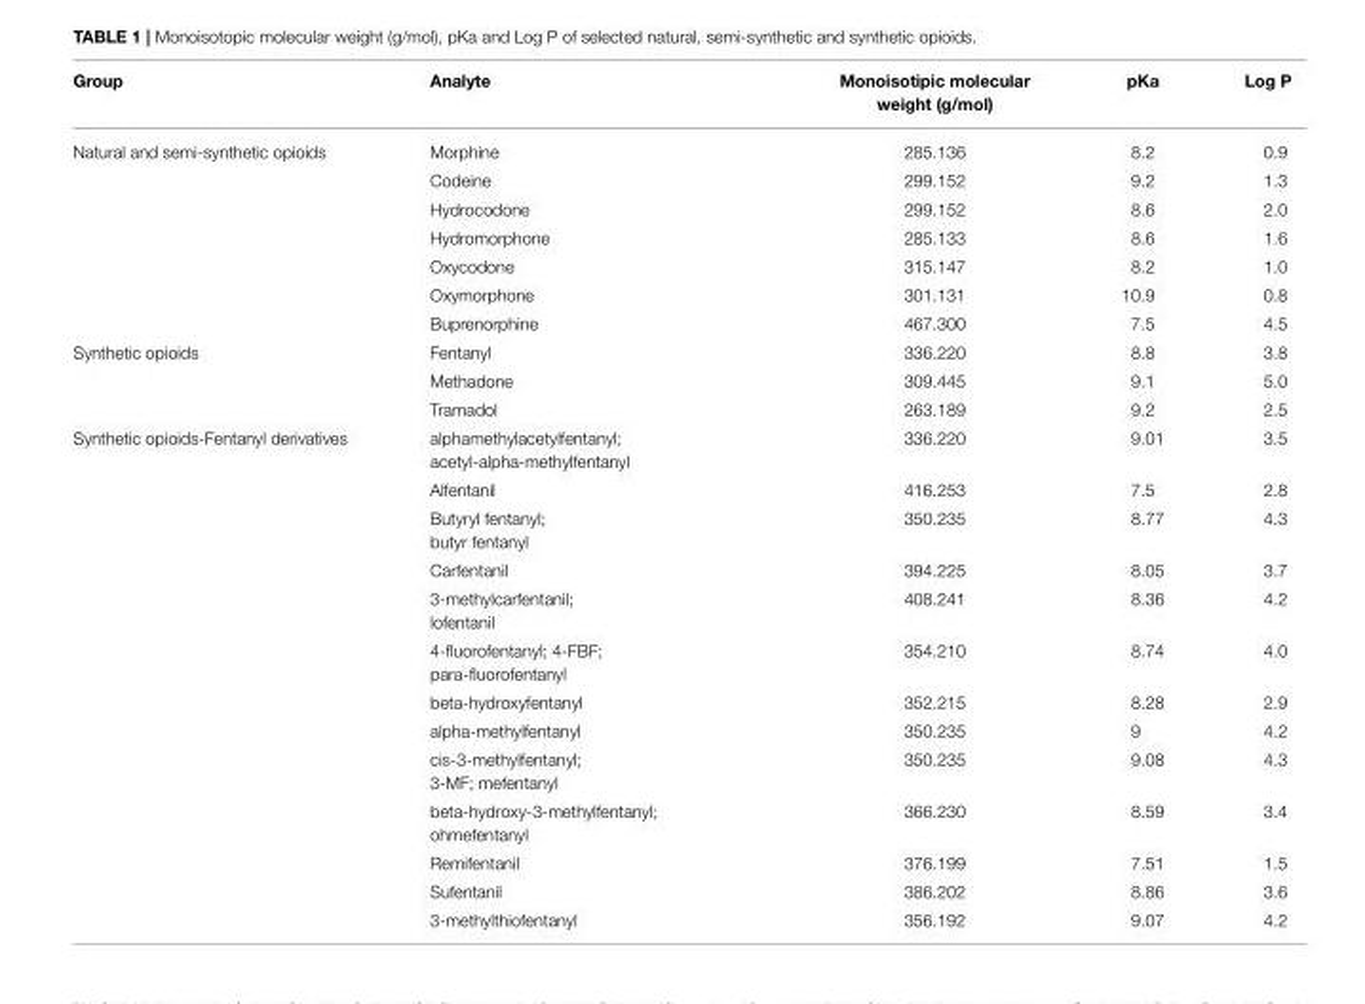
<table><thead><tr><td>Group</td><td>Analyte</td><td>Monoisotipic molecular weight (g/mol)</td><td>pKa</td><td>Log P</td></tr></thead><tbody><tr><td rowspan="7">Natural and semi-synthetic opioids</td><td>Morphine</td><td>285.136</td><td>8.2</td><td>0.9</td></tr><tr><td>Codeine</td><td>299.152</td><td>9.2</td><td>1.3</td></tr><tr><td>Hydrocodone</td><td>299.152</td><td>8.6</td><td>2.0</td></tr><tr><td>Hydromorphone</td><td>285.133</td><td>8.6</td><td>1.6</td></tr><tr><td>Oxycodone</td><td>315.147</td><td>8.2</td><td>1.0</td></tr><tr><td>Oxymorphone</td><td>301.131</td><td>10.9</td><td>0.8</td></tr><tr><td>Buprenorphine</td><td>467.300</td><td>7.5</td><td>4.5</td></tr><tr><td rowspan="3">Synthetic opioids</td><td>Fentanyl</td><td>336.220</td><td>8.8</td><td>3.8</td></tr><tr><td>Methadone</td><td>309.445</td><td>9.1</td><td>5.0</td></tr><tr><td>Tramadol</td><td>263.189</td><td>9.2</td><td>2.5</td></tr><tr><td rowspan="13">Synthetic opioids-Fentanyl derivatives</td><td>alphamethylacetylfentanyl; acetyl-alpha-methylfentanyl</td><td>336.220</td><td>9.01</td><td>3.5</td></tr><tr><td>Alfentanil</td><td>416.253</td><td>7.5</td><td>2.8</td></tr><tr><td>Butyryl fentanyl; butyr fentanyl</td><td>350.235</td><td>8.77</td><td>4.3</td></tr><tr><td>Carfentanil</td><td>394.225</td><td>8.05</td><td>3.7</td></tr><tr><td>3-methylcarfentanil; lofentanil</td><td>408.241</td><td>8.36</td><td>4.2</td></tr><tr><td>4-fluorofentanyl; 4-FBF; para-fluorofentanyl</td><td>354.210</td><td>8.74</td><td>4.0</td></tr><tr><td>beta-hydroxyfentanyl</td><td>352.215</td><td>8.28</td><td>2.9</td></tr><tr><td>alpha-methylfentanyl</td><td>350.235</td><td>9</td><td>4.2</td></tr><tr><td>cis-3-methylfentanyl; 3-MF; mefentanyl</td><td>350.235</td><td>9.08</td><td>4.3</td></tr><tr><td>beta-hydroxy-3-methylfentanyl; ohmefentanyl</td><td>366.230</td><td>8.59</td><td>3.4</td></tr><tr><td>Remifentanil</td><td>376.199</td><td>7.51</td><td>1.5</td></tr><tr><td>Sufentanil</td><td>386.202</td><td>8.86</td><td>3.6</td></tr><tr><td>3-methylthiofentanyl</td><td>356.192</td><td>9.07</td><td>4.2</td></tr></tbody></table>